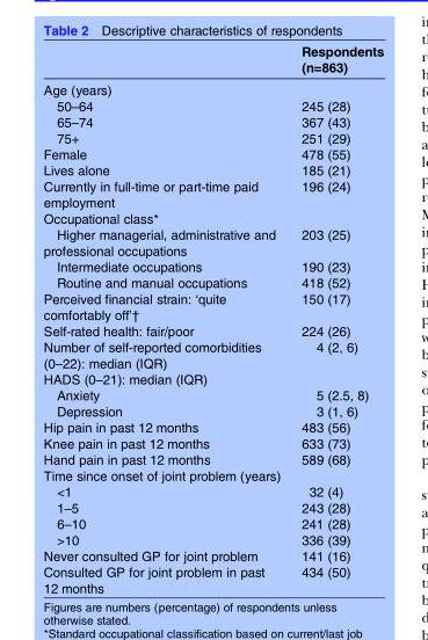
<table><thead><tr><td></td><td>Respondents (n=863)</td></tr></thead><tbody><tr><td colspan="2">Age (years)</td></tr><tr><td>50–64</td><td>245 (28)</td></tr><tr><td>65–74</td><td>367 (43)</td></tr><tr><td>75+</td><td>251 (29)</td></tr><tr><td>Female</td><td>478 (55)</td></tr><tr><td>Lives alone</td><td>185 (21)</td></tr><tr><td>Currently in full-time or part-time paid employment</td><td>196 (24)</td></tr><tr><td colspan="2">Occupational class*</td></tr><tr><td>Higher managerial, administrative and professional occupations</td><td>203 (25)</td></tr><tr><td>Intermediate occupations</td><td>190 (23)</td></tr><tr><td>Routine and manual occupations</td><td>418 (52)</td></tr><tr><td>Perceived financial strain: ‘quite comfortably off’†</td><td>150 (17)</td></tr><tr><td>Self-rated health: fair/poor</td><td>224 (26)</td></tr><tr><td>Number of self-reported comorbidities (0–22): median (IQR)</td><td>4 (2, 6)</td></tr><tr><td colspan="2">HADS (0–21): median (IQR)</td></tr><tr><td>Anxiety</td><td>5 (2.5, 8)</td></tr><tr><td>Depression</td><td>3 (1, 6)</td></tr><tr><td>Hip pain in past 12 months</td><td>483 (56)</td></tr><tr><td>Knee pain in past 12 months</td><td>633 (73)</td></tr><tr><td>Hand pain in past 12 months</td><td>589 (68)</td></tr><tr><td colspan="2">Time since onset of joint problem (years)</td></tr><tr><td>&lt;1</td><td>32 (4)</td></tr><tr><td>1–5</td><td>243 (28)</td></tr><tr><td>6–10</td><td>241 (28)</td></tr><tr><td>&gt;10</td><td>336 (39)</td></tr><tr><td>Never consulted GP for joint problem</td><td>141 (16)</td></tr><tr><td>Consulted GP for joint problem in past 12 months</td><td>434 (50)</td></tr></tbody></table>